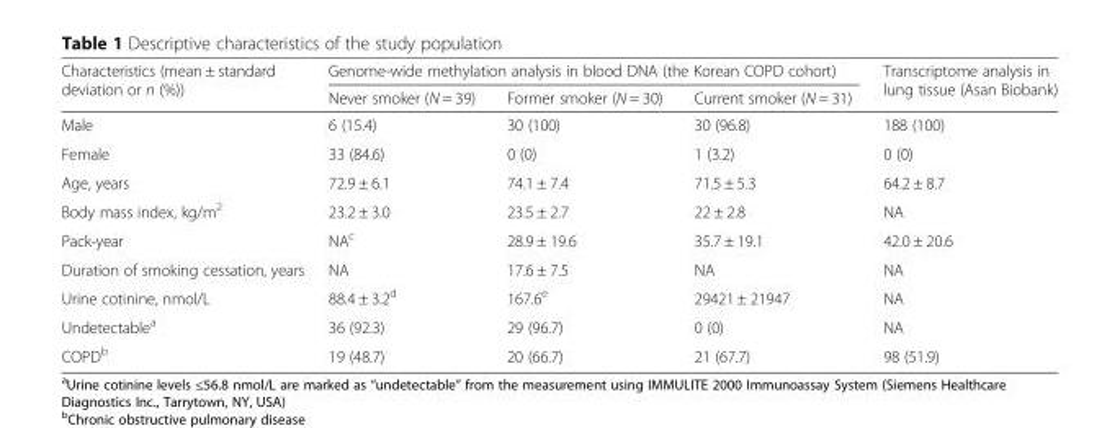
<table><thead><tr><td rowspan="2">Characteristics (mean ± standard deviation or n (%))</td><td colspan="3">Genome-wide methylation analysis in blood DNA (the Korean COPD cohort)</td><td rowspan="2">Transcriptome analysis in lung tissue (Asan Biobank)</td></tr><tr><td>Never smoker (N = 39)</td><td>Former smoker (N = 30)</td><td>Current smoker (N = 31)</td></tr></thead><tbody><tr><td>Male</td><td>6 (15.4)</td><td>30 (100)</td><td>30 (96.8)</td><td>188 (100)</td></tr><tr><td>Female</td><td>33 (84.6)</td><td>0 (0)</td><td>1 (3.2)</td><td>0 (0)</td></tr><tr><td>Age, years</td><td>72.9 ± 6.1</td><td>74.1 ± 7.4</td><td>71.5 ± 5.3</td><td>64.2 ± 8.7</td></tr><tr><td>Body mass index, kg/m<sup>2</sup></td><td>23.2 ± 3.0</td><td>23.5 ± 2.7</td><td>22 ± 2.8</td><td>NA</td></tr><tr><td>Pack-year</td><td>NA<sup>c</sup></td><td>28.9 ± 19.6</td><td>35.7 ± 19.1</td><td>42.0 ± 20.6</td></tr><tr><td>Duration of smoking cessation, years</td><td>NA</td><td>17.6 ± 7.5</td><td>NA</td><td>NA</td></tr><tr><td>Urine cotinine, nmol/L</td><td>88.4 ± 3.2<sup>d</sup></td><td>167.6<sup>e</sup></td><td>29421 ± 21947</td><td>NA</td></tr><tr><td>Undetectable<sup>a</sup></td><td>36 (92.3)</td><td>29 (96.7)</td><td>0 (0)</td><td>NA</td></tr><tr><td>COPD<sup>b</sup></td><td>19 (48.7)</td><td>20 (66.7)</td><td>21 (67.7)</td><td>98 (51.9)</td></tr></tbody></table>